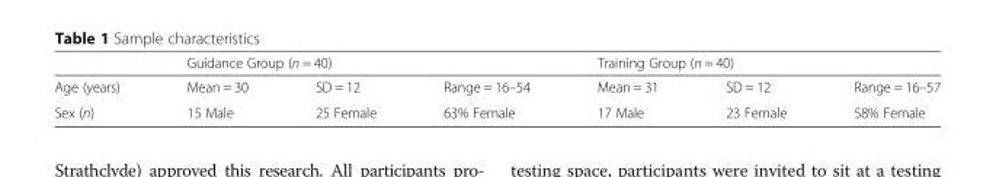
<table><thead><tr><td rowspan="2">Age (years)</td><td colspan="3">Guidance Group (n = 40)</td><td colspan="3">Training Group (n = 40)</td></tr><tr><td>Mean = 30</td><td>SD = 12</td><td>Range = 16–54</td><td>Mean = 31</td><td>SD = 12</td><td>Range = 16–57</td></tr></thead><tbody><tr><td>Sex (n)</td><td>15 Male</td><td>25 Female</td><td>63% Female</td><td>17 Male</td><td>23 Female</td><td>58% Female</td></tr></tbody></table>